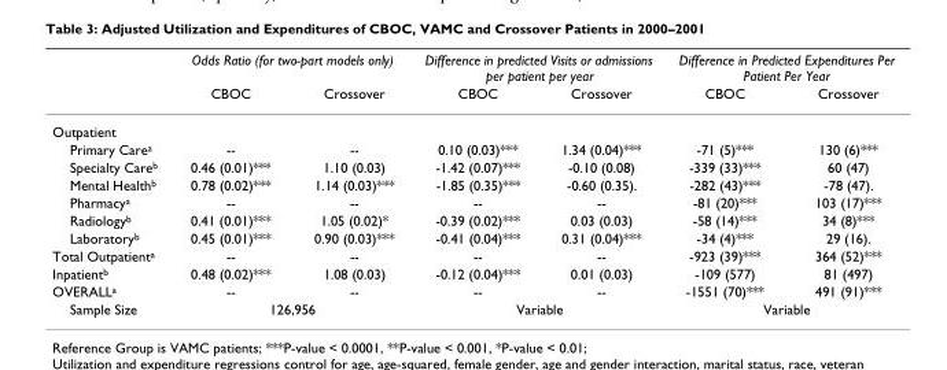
<table><thead><tr><td rowspan="2"></td><td colspan="2">Odds Ratio (for two-part models only)</td><td colspan="2">Difference in predicted Visits or admissions per patient per year</td><td colspan="2">Difference in Predicted Expenditures Per Patient Per Year</td></tr><tr><td>CBOC</td><td>Crossover</td><td>CBOC</td><td>Crossover</td><td>CBOC</td><td>Crossover</td></tr></thead><tbody><tr><td colspan="7">Outpatient</td></tr><tr><td>Primary Care<sup>a</sup></td><td>--</td><td>--</td><td>0.10 (0.03)***</td><td>1.34 (0.04)***</td><td>-71 (5)***</td><td>130 (6)***</td></tr><tr><td>Specialty Care<sup>b</sup></td><td>0.46 (0.01)***</td><td>1.10 (0.03)</td><td>-1.42 (0.07)***</td><td>-0.10 (0.08)</td><td>-339 (33)***</td><td>60 (47)</td></tr><tr><td>Mental Health<sup>b</sup></td><td>0.78 (0.02)***</td><td>1.14 (0.03)***</td><td>-1.85 (0.35)***</td><td>-0.60 (0.35).</td><td>-282 (43)***</td><td>-78 (47).</td></tr><tr><td>Pharmacy<sup>a</sup></td><td>--</td><td>--</td><td>--</td><td>--</td><td>-81 (20)***</td><td>103 (17)***</td></tr><tr><td>Radiology<sup>b</sup></td><td>0.41 (0.01)***</td><td>1.05 (0.02)*</td><td>-0.39 (0.02)***</td><td>0.03 (0.03)</td><td>-58 (14)***</td><td>34 (8)***</td></tr><tr><td>Laboratory<sup>b</sup></td><td>0.45 (0.01)***</td><td>0.90 (0.03)***</td><td>-0.41 (0.04)***</td><td>0.31 (0.04)***</td><td>-34 (4)***</td><td>29 (16).</td></tr><tr><td>Total Outpatient<sup>a</sup></td><td>--</td><td>--</td><td>--</td><td>--</td><td>-923 (39)***</td><td>364 (52)***</td></tr><tr><td>Inpatient<sup>b</sup></td><td>0.48 (0.02)***</td><td>1.08 (0.03)</td><td>-0.12 (0.04)***</td><td>0.01 (0.03)</td><td>-109 (577)</td><td>81 (497)</td></tr><tr><td>OVERALL<sup>a</sup></td><td>--</td><td>--</td><td>--</td><td>--</td><td>-1551 (70)***</td><td>491 (91)***</td></tr><tr><td>Sample Size</td><td colspan="2">126,956</td><td colspan="2">Variable</td><td colspan="2">Variable</td></tr></tbody></table>